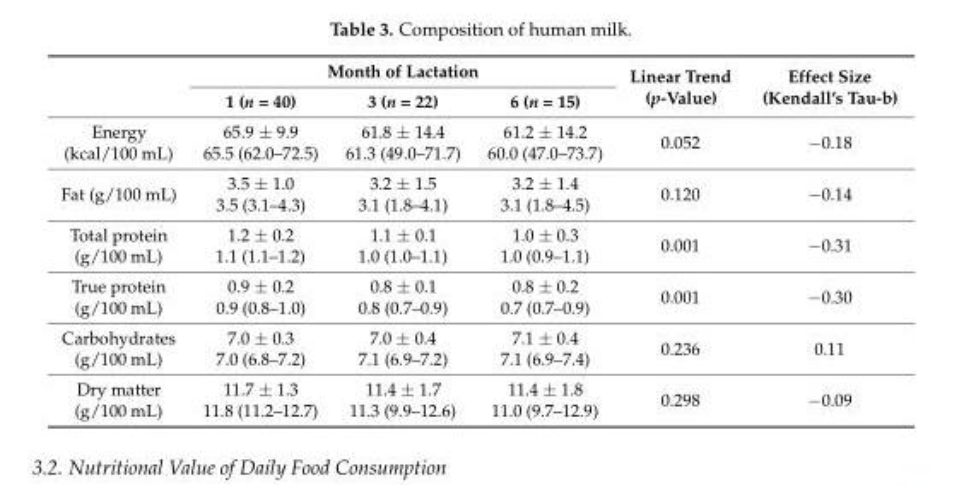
<table><thead><tr><td rowspan="2"></td><td colspan="3">Month of Lactation</td><td rowspan="2">Linear Trend (p-Value)</td><td rowspan="2">Effect Size (Kendall’s Tau-b)</td></tr><tr><td>1 (n = 40)</td><td>3 (n = 22)</td><td>6 (n = 15)</td></tr></thead><tbody><tr><td>Energy (kcal/100 mL)</td><td>65.9 ± 9.9 65.5 (62.0–72.5)</td><td>61.8 ± 14.4 61.3 (49.0–71.7)</td><td>61.2 ± 14.2 60.0 (47.0–73.7)</td><td>0.052</td><td>−0.18</td></tr><tr><td>Fat (g/100 mL)</td><td>3.5 ± 1.0 3.5 (3.1–4.3)</td><td>3.2 ± 1.5 3.1 (1.8–4.1)</td><td>3.2 ± 1.4 3.1 (1.8–4.5)</td><td>0.120</td><td>−0.14</td></tr><tr><td>Total protein (g/100 mL)</td><td>1.2 ± 0.2 1.1 (1.1–1.2)</td><td>1.1 ± 0.1 1.0 (1.0–1.1)</td><td>1.0 ± 0.3 1.0 (0.9–1.1)</td><td>0.001</td><td>−0.31</td></tr><tr><td>True protein (g/100 mL)</td><td>0.9 ± 0.2 0.9 (0.8–1.0)</td><td>0.8 ± 0.1 0.8 (0.7–0.9)</td><td>0.8 ± 0.2 0.7 (0.7–0.9)</td><td>0.001</td><td>−0.30</td></tr><tr><td>Carbohydrates (g/100 mL)</td><td>7.0 ± 0.3 7.0 (6.8–7.2)</td><td>7.0 ± 0.4 7.1 (6.9–7.2)</td><td>7.1 ± 0.4 7.1 (6.9–7.4)</td><td>0.236</td><td>0.11</td></tr><tr><td>Dry matter (g/100 mL)</td><td>11.7 ± 1.3 11.8 (11.2–12.7)</td><td>11.4 ± 1.7 11.3 (9.9–12.6)</td><td>11.4 ± 1.8 11.0 (9.7–12.9)</td><td>0.298</td><td>−0.09</td></tr></tbody></table>